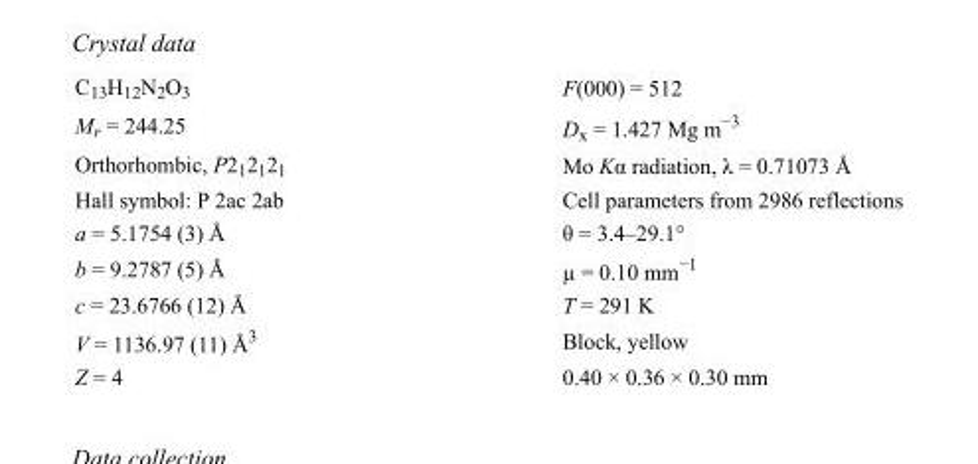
<table><tbody><tr><td>C<sub>13</sub>H<sub>12</sub>N<sub>2</sub>O<sub>3</sub></td><td>F(000) = 512</td></tr><tr><td>M<sub>r</sub> = 244.25</td><td>D<sub>x</sub> = 1.427 Mg m<sup>−3</sup></td></tr><tr><td>Orthorhombic, P2<sub>1</sub>2<sub>1</sub>2<sub>1</sub></td><td>Mo Kα radiation, λ = 0.71073 Å</td></tr><tr><td>Hall symbol: P 2ac 2ab</td><td>Cell parameters from 2986 reflections</td></tr><tr><td>a = 5.1754 (3) Å</td><td>θ = 3.4–29.1°</td></tr><tr><td>b = 9.2787 (5) Å</td><td>µ = 0.10 mm<sup>−1</sup></td></tr><tr><td>c = 23.6766 (12) Å</td><td>T = 291 K</td></tr><tr><td>V = 1136.97 (11) Å<sup>3</sup></td><td>Block, yellow</td></tr><tr><td>Z = 4</td><td>0.40 × 0.36 × 0.30 mm</td></tr></tbody></table>